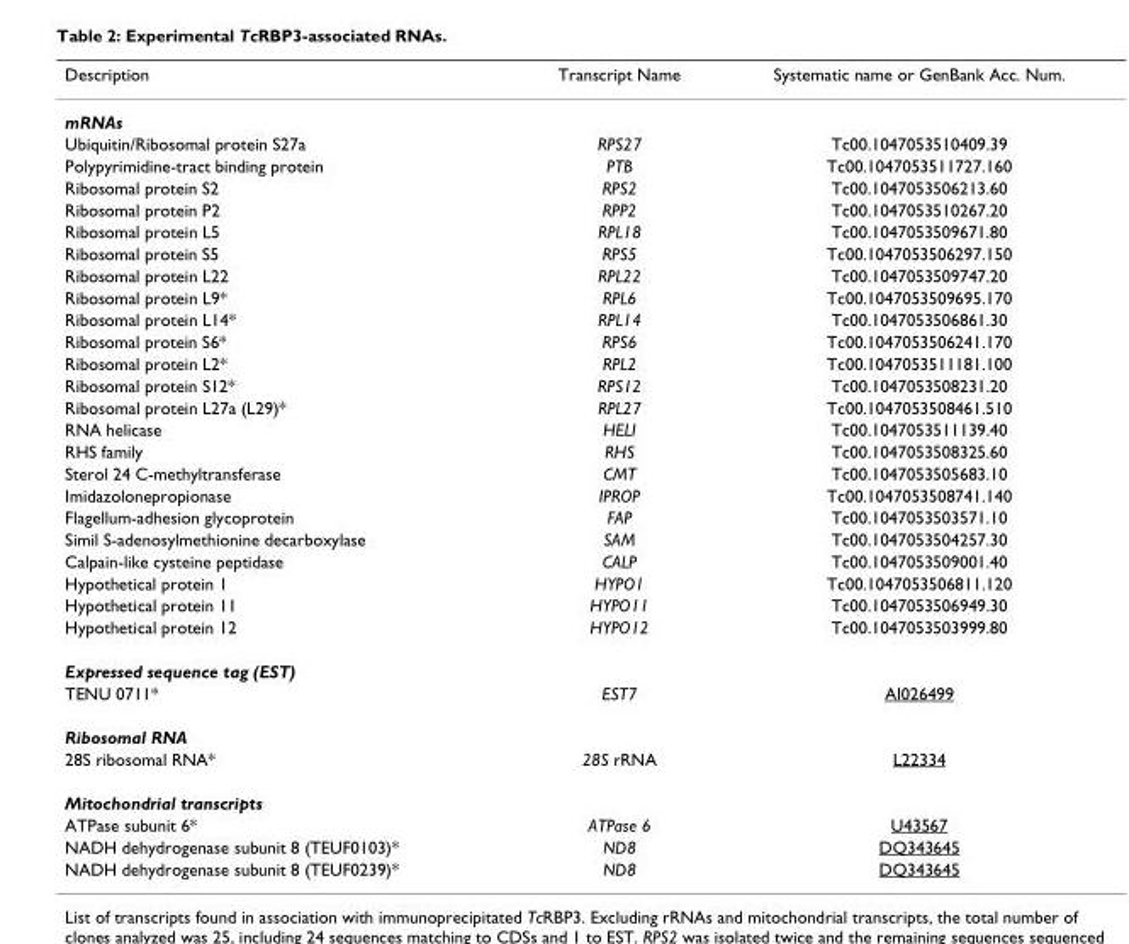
<table><thead><tr><td>Description</td><td>Transcript Name</td><td>Systematic name or GenBank Acc. Num.</td></tr></thead><tbody><tr><td colspan="3">mRNAs</td></tr><tr><td>Ubiquitin/Ribosomal protein S27a</td><td>RPS27</td><td>Tc00.1047053510409.39</td></tr><tr><td>Polypyrimidine-tract binding protein</td><td>PTB</td><td>Tc00.1047053511727.160</td></tr><tr><td>Ribosomal protein S2</td><td>RPS2</td><td>Tc00.1047053506213.60</td></tr><tr><td>Ribosomal protein P2</td><td>RPP2</td><td>Tc00.1047053510267.20</td></tr><tr><td>Ribosomal protein L5</td><td>RPL18</td><td>Tc00.1047053509671.80</td></tr><tr><td>Ribosomal protein S5</td><td>RPS5</td><td>Tc00.1047053506297.150</td></tr><tr><td>Ribosomal protein L22</td><td>RPL22</td><td>Tc00.1047053509747.20</td></tr><tr><td>Ribosomal protein L9*</td><td>RPL6</td><td>Tc00.1047053509695.170</td></tr><tr><td>Ribosomal protein L14*</td><td>RPL14</td><td>Tc00.1047053506861.30</td></tr><tr><td>Ribosomal protein S6*</td><td>RPS6</td><td>Tc00.1047053506241.170</td></tr><tr><td>Ribosomal protein L2*</td><td>RPL2</td><td>Tc00.1047053511181.100</td></tr><tr><td>Ribosomal protein S12*</td><td>RPS12</td><td>Tc00.1047053508231.20</td></tr><tr><td>Ribosomal protein L27a (L29)*</td><td>RPL27</td><td>Tc00.1047053508461.510</td></tr><tr><td>RNA helicase</td><td>HELI</td><td>Tc00.1047053511139.40</td></tr><tr><td>RHS family</td><td>RHS</td><td>Tc00.1047053508325.60</td></tr><tr><td>Sterol 24 C-methyltransferase</td><td>CMT</td><td>Tc00.1047053505683.10</td></tr><tr><td>Imidazolonepropionase</td><td>IPROP</td><td>Tc00.1047053508741.140</td></tr><tr><td>Flagellum-adhesion glycoprotein</td><td>FAP</td><td>Tc00.1047053503571.10</td></tr><tr><td>Simil S-adenosylmethionine decarboxylase</td><td>SAM</td><td>Tc00.1047053504257.30</td></tr><tr><td>Calpain-like cysteine peptidase</td><td>CALP</td><td>Tc00.1047053509001.40</td></tr><tr><td>Hypothetical protein 1</td><td>HYPO1</td><td>Tc00.1047053506811.120</td></tr><tr><td>Hypothetical protein 11</td><td>HYPO11</td><td>Tc00.1047053506949.30</td></tr><tr><td>Hypothetical protein 12</td><td>HYPO12</td><td>Tc00.1047053503999.80</td></tr><tr><td colspan="3">Expressed sequence tag (EST)</td></tr><tr><td>TENU 0711*</td><td>EST7</td><td>AI026499</td></tr><tr><td colspan="3">Ribosomal RNA</td></tr><tr><td>28S ribosomal RNA*</td><td>28S rRNA</td><td>L22334</td></tr><tr><td colspan="3">Mitochondrial transcripts</td></tr><tr><td>ATPase subunit 6*</td><td>ATPase 6</td><td>U43567</td></tr><tr><td>NADH dehydrogenase subunit 8 (TEUF0103)*</td><td>ND8</td><td>DQ343645</td></tr><tr><td>NADH dehydrogenase subunit 8 (TEUF0239)*</td><td>ND8</td><td>DQ343645</td></tr></tbody></table>